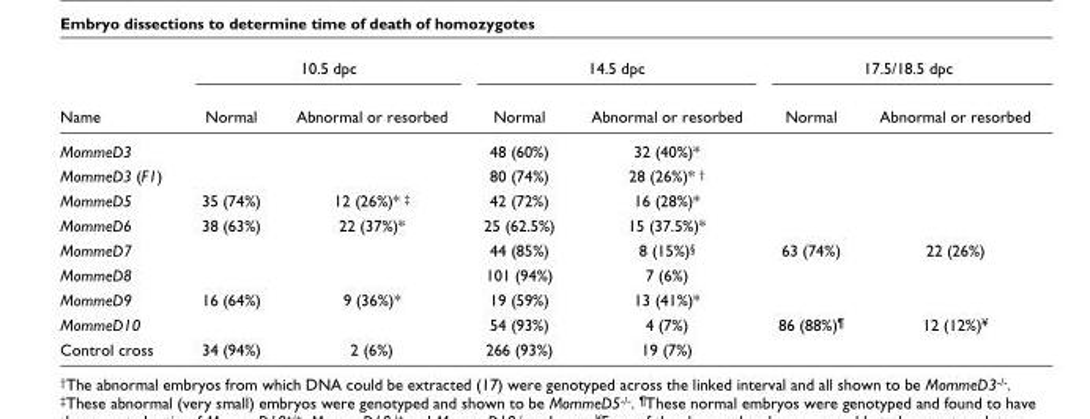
<table><thead><tr><td rowspan="2">Name</td><td colspan="2">10.5 dpc</td><td colspan="2">14.5 dpc</td><td colspan="2">17.5/18.5 dpc</td></tr><tr><td>Normal</td><td>Abnormal or resorbed</td><td>Normal</td><td>Abnormal or resorbed</td><td>Normal</td><td>Abnormal or resorbed</td></tr></thead><tbody><tr><td>MommeD3</td><td></td><td></td><td>48 (60%)</td><td>32 (40%)*</td><td></td><td></td></tr><tr><td>MommeD3 (F1)</td><td></td><td></td><td>80 (74%)</td><td>28 (26%)* <sup>†</sup></td><td></td><td></td></tr><tr><td>MommeD5</td><td>35 (74%)</td><td>12 (26%)* <sup>‡</sup></td><td>42 (72%)</td><td>16 (28%)*</td><td></td><td></td></tr><tr><td>MommeD6</td><td>38 (63%)</td><td>22 (37%)*</td><td>25 (62.5%)</td><td>15 (37.5%)*</td><td></td><td></td></tr><tr><td>MommeD7</td><td></td><td></td><td>44 (85%)</td><td>8 (15%)<sup>§</sup></td><td>63 (74%)</td><td>22 (26%)</td></tr><tr><td>MommeD8</td><td></td><td></td><td>101 (94%)</td><td>7 (6%)</td><td></td><td></td></tr><tr><td>MommeD9</td><td>16 (64%)</td><td>9 (36%)*</td><td>19 (59%)</td><td>13 (41%)*</td><td></td><td></td></tr><tr><td>MommeD10</td><td></td><td></td><td>54 (93%)</td><td>4 (7%)</td><td>86 (88%)<sup>¶</sup></td><td>12 (12%)<sup>¥</sup></td></tr><tr><td>Control cross</td><td>34 (94%)</td><td>2 (6%)</td><td>266 (93%)</td><td>19 (7%)</td><td></td><td></td></tr></tbody></table>